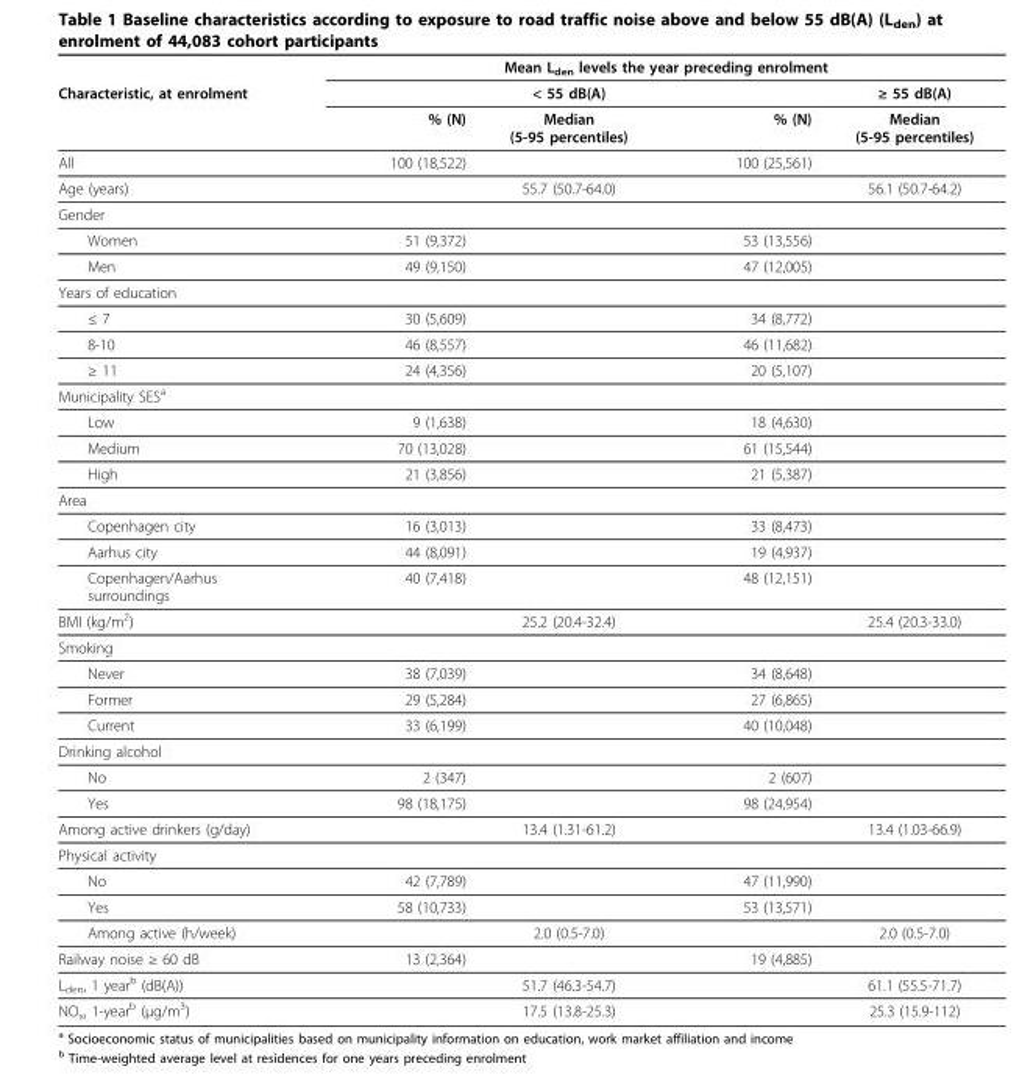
<table><thead><tr><td rowspan="3">Characteristic, at enrolment</td><td colspan="4">Mean L<sub>den</sub> levels the year preceding enrolment</td></tr><tr><td colspan="3">&lt; 55 dB(A)</td><td rowspan="2">≥ 55 dB(A) Median (5-95 percentiles)</td></tr><tr><td>% (N)</td><td>Median (5-95 percentiles)</td><td>% (N)</td></tr></thead><tbody><tr><td>All</td><td>100 (18,522)</td><td></td><td>100 (25,561)</td><td></td></tr><tr><td>Age (years)</td><td></td><td>55.7 (50.7-64.0)</td><td></td><td>56.1 (50.7-64.2)</td></tr><tr><td colspan="5">Gender</td></tr><tr><td>Women</td><td>51 (9,372)</td><td></td><td>53 (13,556)</td><td></td></tr><tr><td>Men</td><td>49 (9,150)</td><td></td><td>47 (12,005)</td><td></td></tr><tr><td colspan="5">Years of education</td></tr><tr><td>≤ 7</td><td>30 (5,609)</td><td></td><td>34 (8,772)</td><td></td></tr><tr><td>8-10</td><td>46 (8,557)</td><td></td><td>46 (11,682)</td><td></td></tr><tr><td>≥ 11</td><td>24 (4,356)</td><td></td><td>20 (5,107)</td><td></td></tr><tr><td colspan="5">Municipality SES<sup>a</sup></td></tr><tr><td>Low</td><td>9 (1,638)</td><td></td><td>18 (4,630)</td><td></td></tr><tr><td>Medium</td><td>70 (13,028)</td><td></td><td>61 (15,544)</td><td></td></tr><tr><td>High</td><td>21 (3,856)</td><td></td><td>21 (5,387)</td><td></td></tr><tr><td colspan="5">Area</td></tr><tr><td>Copenhagen city</td><td>16 (3,013)</td><td></td><td>33 (8,473)</td><td></td></tr><tr><td>Aarhus city</td><td>44 (8,091)</td><td></td><td>19 (4,937)</td><td></td></tr><tr><td>Copenhagen/Aarhus surroundings</td><td>40 (7,418)</td><td></td><td>48 (12,151)</td><td></td></tr><tr><td>BMI (kg/m<sup>2</sup>)</td><td></td><td>25.2 (20.4-32.4)</td><td></td><td>25.4 (20.3-33.0)</td></tr><tr><td colspan="5">Smoking</td></tr><tr><td>Never</td><td>38 (7,039)</td><td></td><td>34 (8,648)</td><td></td></tr><tr><td>Former</td><td>29 (5,284)</td><td></td><td>27 (6,865)</td><td></td></tr><tr><td>Current</td><td>33 (6,199)</td><td></td><td>40 (10,048)</td><td></td></tr><tr><td colspan="5">Drinking alcohol</td></tr><tr><td>No</td><td>2 (347)</td><td></td><td>2 (607)</td><td></td></tr><tr><td>Yes</td><td>98 (18,175)</td><td></td><td>98 (24,954)</td><td></td></tr><tr><td>Among active drinkers (g/day)</td><td></td><td>13.4 (1.31-61.2)</td><td></td><td>13.4 (1.03-66.9)</td></tr><tr><td colspan="5">Physical activity</td></tr><tr><td>No</td><td>42 (7,789)</td><td></td><td>47 (11,990)</td><td></td></tr><tr><td>Yes</td><td>58 (10,733)</td><td></td><td>53 (13,571)</td><td></td></tr><tr><td>Among active (h/week)</td><td></td><td>2.0 (0.5-7.0)</td><td></td><td>2.0 (0.5-7.0)</td></tr><tr><td>Railway noise ≥ 60 dB</td><td>13 (2,364)</td><td></td><td>19 (4,885)</td><td></td></tr><tr><td>L<sub>den</sub>, 1 year<sup>b</sup> (dB(A))</td><td></td><td>51.7 (46.3-54.7)</td><td></td><td>61.1 (55.5-71.7)</td></tr><tr><td>NO<sub>x</sub>, 1-year<sup>b</sup> (μg/m<sup>3</sup>)</td><td></td><td>17.5 (13.8-25.3)</td><td></td><td>25.3 (15.9-112)</td></tr></tbody></table>